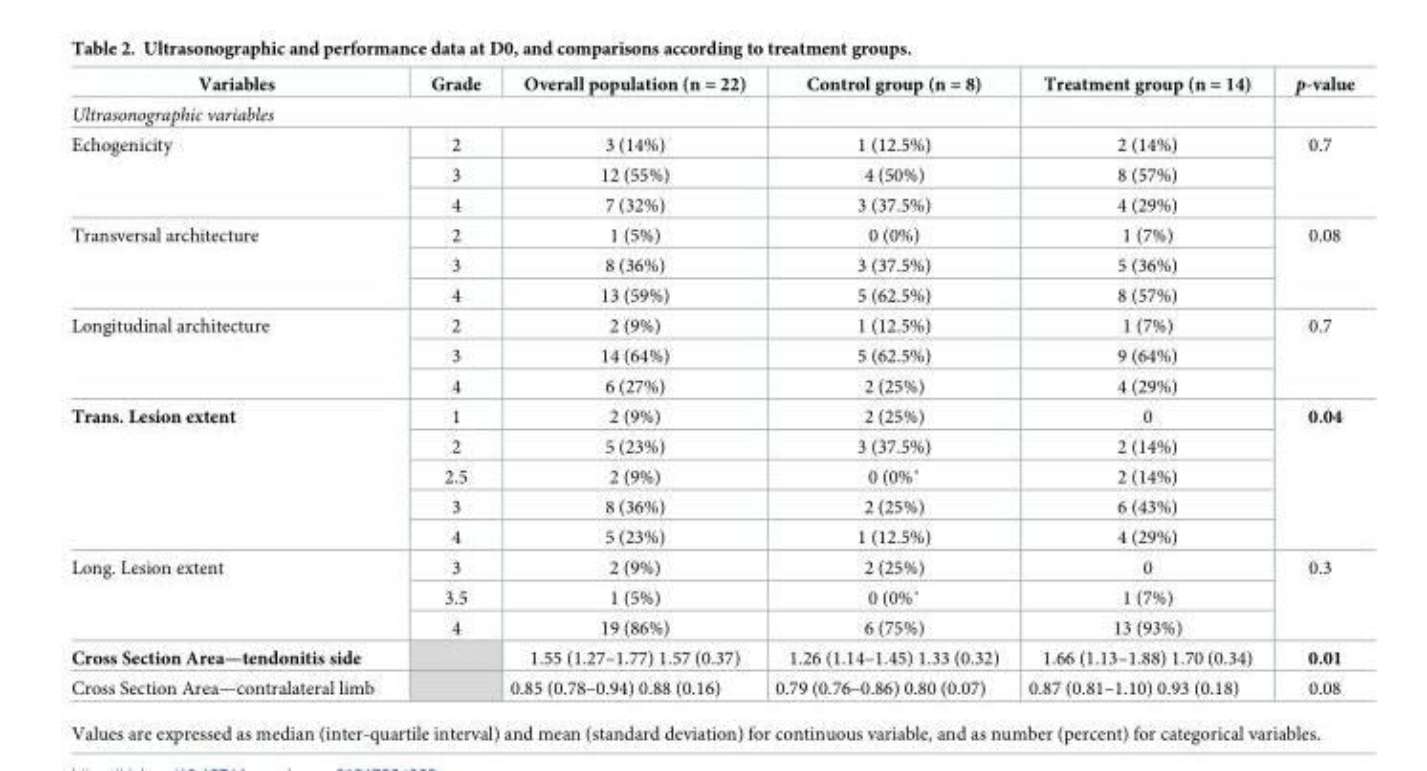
<table><thead><tr><td>Variables</td><td>Grade</td><td>Overall population (n = 22)</td><td>Control group (n = 8)</td><td>Treatment group (n = 14)</td><td>p-value</td></tr></thead><tbody><tr><td colspan="6">Ultrasonographic variables</td></tr><tr><td rowspan="3">Echogenicity</td><td>2</td><td>3 (14%)</td><td>1 (12.5%)</td><td>2 (14%)</td><td rowspan="3">0.7</td></tr><tr><td>3</td><td>12 (55%)</td><td>4 (50%)</td><td>8 (57%)</td></tr><tr><td>4</td><td>7 (32%)</td><td>3 (37.5%)</td><td>4 (29%)</td></tr><tr><td rowspan="3">Transversal architecture</td><td>2</td><td>1 (5%)</td><td>0 (0%)</td><td>1 (7%)</td><td rowspan="3">0.08</td></tr><tr><td>3</td><td>8 (36%)</td><td>3 (37.5%)</td><td>5 (36%)</td></tr><tr><td>4</td><td>13 (59%)</td><td>5 (62.5%)</td><td>8 (57%)</td></tr><tr><td rowspan="3">Longitudinal architecture</td><td>2</td><td>2 (9%)</td><td>1 (12.5%)</td><td>1 (7%)</td><td rowspan="3">0.7</td></tr><tr><td>3</td><td>14 (64%)</td><td>5 (62.5%)</td><td>9 (64%)</td></tr><tr><td>4</td><td>6 (27%)</td><td>2 (25%)</td><td>4 (29%)</td></tr><tr><td rowspan="5">Trans. Lesion extent</td><td>1</td><td>2 (9%)</td><td>2 (25%)</td><td>0</td><td rowspan="5">0.04</td></tr><tr><td>2</td><td>5 (23%)</td><td>3 (37.5%)</td><td>2 (14%)</td></tr><tr><td>2.5</td><td>2 (9%)</td><td>0 (0%˚</td><td>2 (14%)</td></tr><tr><td>3</td><td>8 (36%)</td><td>2 (25%)</td><td>6 (43%)</td></tr><tr><td>4</td><td>5 (23%)</td><td>1 (12.5%)</td><td>4 (29%)</td></tr><tr><td rowspan="3">Long. Lesion extent</td><td>3</td><td>2 (9%)</td><td>2 (25%)</td><td>0</td><td rowspan="3">0.3</td></tr><tr><td>3.5</td><td>1 (5%)</td><td>0 (0%˚</td><td>1 (7%)</td></tr><tr><td>4</td><td>19 (86%)</td><td>6 (75%)</td><td>13 (93%)</td></tr><tr><td>Cross Section Area—tendonitis side</td><td></td><td>1.55 (1.27–1.77) 1.57 (0.37)</td><td>1.26 (1.14–1.45) 1.33 (0.32)</td><td>1.66 (1.13–1.88) 1.70 (0.34)</td><td>0.01</td></tr><tr><td>Cross Section Area—contralateral limb</td><td></td><td>0.85 (0.78–0.94) 0.88 (0.16)</td><td>0.79 (0.76–0.86) 0.80 (0.07)</td><td>0.87 (0.81–1.10) 0.93 (0.18)</td><td>0.08</td></tr></tbody></table>